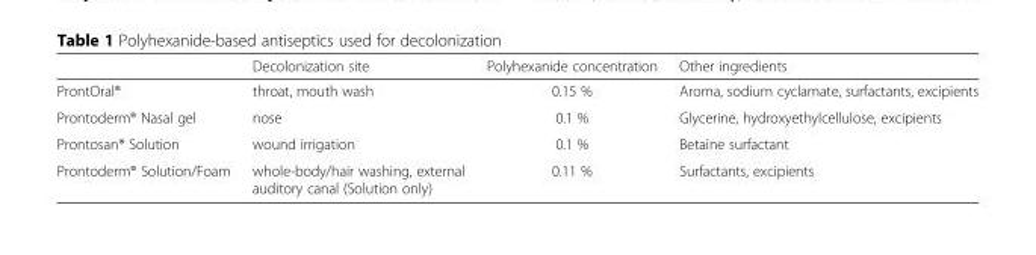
<table><thead><tr><td></td><td>Decolonization site</td><td>Polyhexanide concentration</td><td>Other ingredients</td></tr></thead><tbody><tr><td>ProntOral®</td><td>throat, mouth wash</td><td>0.15 %</td><td>Aroma, sodium cyclamate, surfactants, excipients</td></tr><tr><td>Prontoderm® Nasal gel</td><td>nose</td><td>0.1 %</td><td>Glycerine, hydroxyethylcellulose, excipients</td></tr><tr><td>Prontosan® Solution</td><td>wound irrigation</td><td>0.1 %</td><td>Betaine surfactant</td></tr><tr><td>Prontoderm® Solution/Foam</td><td>whole-body/hair washing, external auditory canal (Solution only)</td><td>0.11 %</td><td>Surfactants, excipients</td></tr></tbody></table>